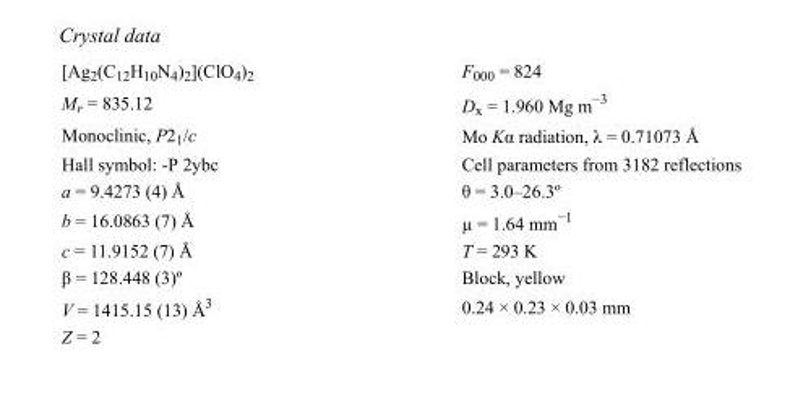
<table><tbody><tr><td>[Ag<sub>2</sub>(C<sub>12</sub>H<sub>10</sub>N<sub>4</sub>)<sub>2</sub>](ClO<sub>4</sub>)<sub>2</sub></td><td>F000 = 824</td></tr><tr><td>M<sub>r</sub> = 835.12</td><td>D<sub>x</sub> = 1.960 Mg m<sup>−3</sup></td></tr><tr><td>Monoclinic, P2<sub>1</sub>/c</td><td>Mo Kα radiation, λ = 0.71073 Å</td></tr><tr><td>Hall symbol: -P 2ybc</td><td>Cell parameters from 3182 reflections</td></tr><tr><td>a = 9.4273 (4) Å</td><td>θ = 3.0–26.3º</td></tr><tr><td>b = 16.0863 (7) Å</td><td>µ = 1.64 mm<sup>−1</sup></td></tr><tr><td>c = 11.9152 (7) Å</td><td>T = 293 K</td></tr><tr><td>β = 128.448 (3)º</td><td>Block, yellow</td></tr><tr><td>V = 1415.15 (13) Å<sup>3</sup></td><td>0.24 × 0.23 × 0.03 mm</td></tr><tr><td>Z = 2</td><td></td></tr></tbody></table>